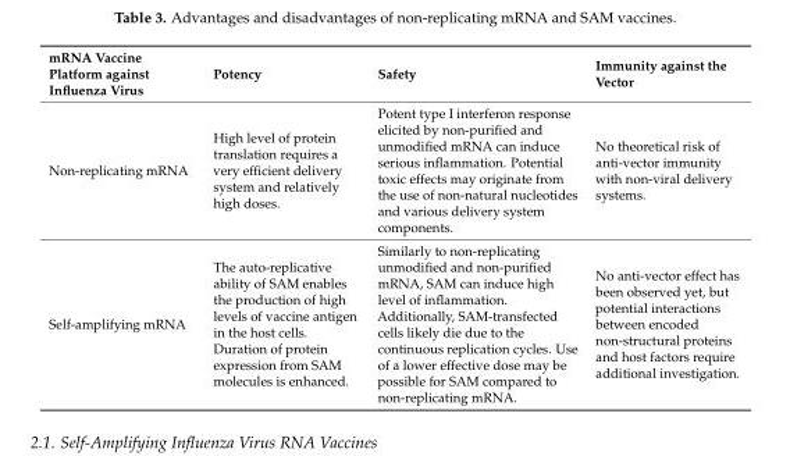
<table><thead><tr><td>mRNA Vaccine Platform against Influenza Virus</td><td>Potency</td><td>Safety</td><td>Immunity against the Vector</td></tr></thead><tbody><tr><td>Non-replicating mRNA</td><td>High level of protein translation requires a very efficient delivery system and relatively high doses.</td><td>Potent type I interferon response elicited by non-purified and unmodified mRNA can induce serious inflammation. Potential toxic effects may originate from the use of non-natural nucleotides and various delivery system components.</td><td>No theoretical risk of anti-vector immunity with non-viral delivery systems.</td></tr><tr><td>Self-amplifying mRNA</td><td>The auto-replicative ability of SAM enables the production of high levels of vaccine antigen in the host cells. Duration of protein expression from SAM molecules is enhanced.</td><td>Similarly to non-replicating unmodified and non-purified mRNA, SAM can induce high level of inflammation. Additionally, SAM-transfected cells likely die due to the continuous replication cycles. Use of a lower effective dose may be possible for SAM compared to non-replicating mRNA.</td><td>No anti-vector effect has been observed yet, but potential interactions between encoded non-structural proteins and host factors require additional investigation.</td></tr></tbody></table>